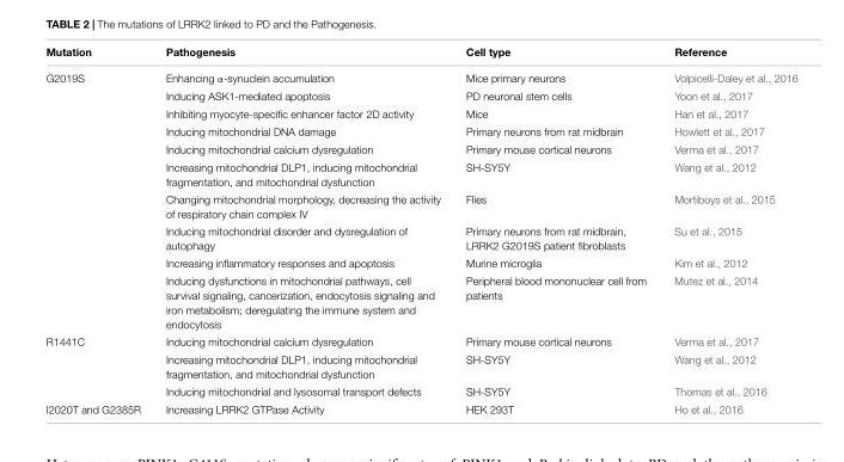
<table><thead><tr><td>Mutation</td><td>Pathogenesis</td><td>Cell type</td><td>Reference</td></tr></thead><tbody><tr><td rowspan="10">G2019S</td><td>Enhancing α-synuclein accumulation</td><td>Mice primary neurons</td><td>Volpicelli-Daley et al., 2016</td></tr><tr><td>Inducing ASK1-mediated apoptosis</td><td>PD neuronal stem cells</td><td>Yoon et al., 2017</td></tr><tr><td>Inhibiting myocyte-specific enhancer factor 2D activity</td><td>Mice</td><td>Han et al., 2017</td></tr><tr><td>Inducing mitochondrial DNA damage</td><td>Primary neurons from rat midbrain</td><td>Howlett et al., 2017</td></tr><tr><td>Inducing mitochondrial calcium dysregulation</td><td>Primary mouse cortical neurons</td><td>Verma et al., 2017</td></tr><tr><td>Increasing mitochondrial DLP1, inducing mitochondrial fragmentation, and mitochondrial dysfunction</td><td>SH-SY5Y</td><td>Wang et al., 2012</td></tr><tr><td>Changing mitochondrial morphology, decreasing the activity of respiratory chain complex IV</td><td>Flies</td><td>Mortiboys et al., 2015</td></tr><tr><td>Inducing mitochondrial disorder and dysregulation of autophagy</td><td>Primary neurons from rat midbrain, LRRK2 G2019S patient fibroblasts</td><td>Su et al., 2015</td></tr><tr><td>Increasing inflammatory responses and apoptosis</td><td>Murine microglia</td><td>Kim et al., 2012</td></tr><tr><td>Inducing dysfunctions in mitochondrial pathways, cell survival signaling, cancerization, endocytosis signaling and iron metabolism; deregulating the immune system and endocytosis</td><td>Peripheral blood mononuclear cell from patients</td><td>Mutez et al., 2014</td></tr><tr><td rowspan="3">R1441C</td><td>Inducing mitochondrial calcium dysregulation</td><td>Primary mouse cortical neurons</td><td>Verma et al., 2017</td></tr><tr><td>Increasing mitochondrial DLP1, inducing mitochondrial fragmentation, and mitochondrial dysfunction</td><td>SH-SY5Y</td><td>Wang et al., 2012</td></tr><tr><td>Inducing mitochondrial and lysosomal transport defects</td><td>SH-SY5Y</td><td>Thomas et al., 2016</td></tr><tr><td>I2020T and G2385R</td><td>Increasing LRRK2 GTPase Activity</td><td>HEK 293T</td><td>Ho et al., 2016</td></tr></tbody></table>